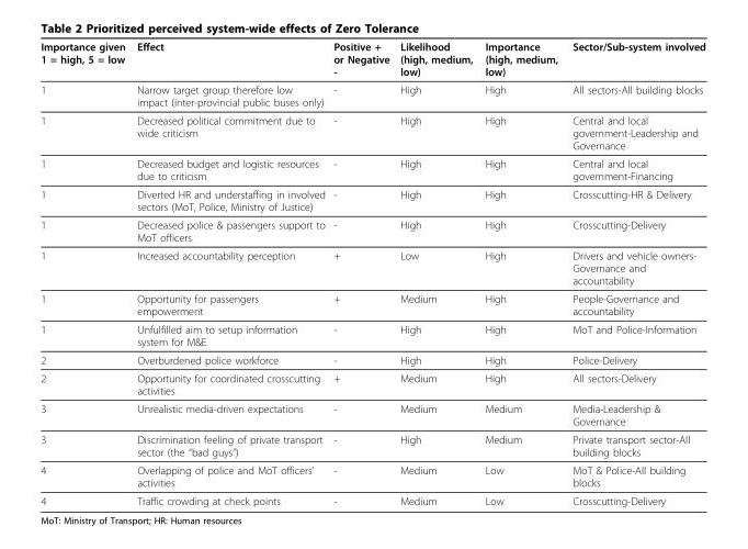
<table><thead><tr><td>Importance given 1 = high, 5 = low</td><td>Effect</td><td>Positive + or Negative -</td><td>Likelihood (high, medium, low)</td><td>Importance (high, medium, low)</td><td>Sector/Sub-system involved</td></tr></thead><tbody><tr><td>1</td><td>Narrow target group therefore low impact (inter-provincial public buses only)</td><td>-</td><td>High</td><td>High</td><td>All sectors-All building blocks</td></tr><tr><td>1</td><td>Decreased political commitment due to wide criticism</td><td>-</td><td>High</td><td>High</td><td>Central and local government-Leadership and Governance</td></tr><tr><td>1</td><td>Decreased budget and logistic resources due to criticism</td><td>-</td><td>High</td><td>High</td><td>Central and local government-Financing</td></tr><tr><td>1</td><td>Diverted HR and understaffing in involved sectors (MoT, Police, Ministry of Justice)</td><td>-</td><td>High</td><td>High</td><td>Crosscutting-HR &amp; Delivery</td></tr><tr><td>1</td><td>Decreased police &amp; passengers support to MoT officers</td><td>-</td><td>High</td><td>High</td><td>Crosscutting-Delivery</td></tr><tr><td>1</td><td>Increased accountability perception</td><td>+</td><td>Low</td><td>High</td><td>Drivers and vehicle owners- Governance and accountability</td></tr><tr><td>1</td><td>Opportunity for passengers empowerment</td><td>+</td><td>Medium</td><td>High</td><td>People-Governance and accountability</td></tr><tr><td>1</td><td>Unfulfilled aim to setup information system for M&amp;E</td><td>-</td><td>High</td><td>High</td><td>MoT and Police-Information</td></tr><tr><td>2</td><td>Overburdened police workforce</td><td>-</td><td>High</td><td>High</td><td>Police-Delivery</td></tr><tr><td>2</td><td>Opportunity for coordinated crosscutting activities</td><td>+</td><td>Medium</td><td>High</td><td>All sectors-Delivery</td></tr><tr><td>3</td><td>Unrealistic media-driven expectations</td><td>-</td><td>Medium</td><td>Medium</td><td>Media-Leadership &amp; Governance</td></tr><tr><td>3</td><td>Discrimination feeling of private transport sector (the “bad guys”)</td><td>-</td><td>High</td><td>Medium</td><td>Private transport sector-All building blocks</td></tr><tr><td>4</td><td>Overlapping of police and MoT officers’ activities</td><td>-</td><td>Medium</td><td>Low</td><td>MoT &amp; Police-All building blocks</td></tr><tr><td>4</td><td>Traffic crowding at check points</td><td>-</td><td>Medium</td><td>Low</td><td>Crosscutting-Delivery</td></tr></tbody></table>